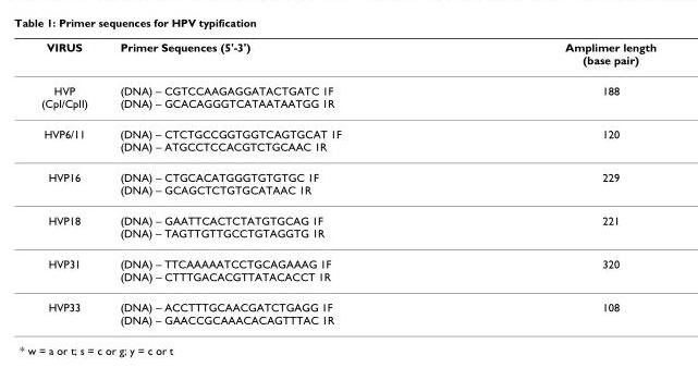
<table><thead><tr><td>VIRUS</td><td>Primer Sequences (5&#x27;-3&#x27;)</td><td>Amplimer length (base pair)</td></tr></thead><tbody><tr><td>HVP (CpI/CpII)</td><td>(DNA) – CGTCCAAGAGGATACTGATC 1F (DNA) – GCACAGGGTCATAATAATGG 1R</td><td>188</td></tr><tr><td>HVP6/11</td><td>(DNA) – CTCTGCCGGTGGTCAGTGCAT 1F (DNA) – ATGCCTCCACGTCTGCAAC 1R</td><td>120</td></tr><tr><td>HVP16</td><td>(DNA) – CTGCACATGGGTGTGTGC 1F (DNA) – GCAGCTCTGTGCATAAC 1R</td><td>229</td></tr><tr><td>HVP18</td><td>(DNA) – GAATTCACTCTATGTGCAG 1F (DNA) – TAGTTGTTGCCTGTAGGTG 1R</td><td>221</td></tr><tr><td>HVP31</td><td>(DNA) – TTCAAAAATCCTGCAGAAAG 1F (DNA) – CTTTGACACGTTATACACCT 1R</td><td>320</td></tr><tr><td>HVP33</td><td>(DNA) – ACCTTTGCAACGATCTGAGG 1F (DNA) – GAACCGCAAACACAGTTTAC 1R</td><td>108</td></tr></tbody></table>